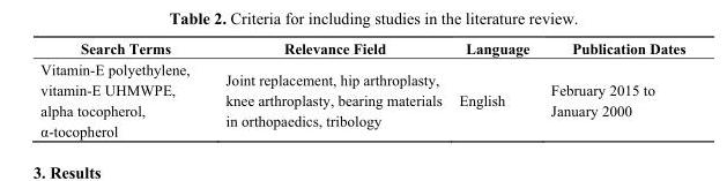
<table><thead><tr><td>Search Terms</td><td>Relevance Field</td><td>Language</td><td>Publication Dates</td></tr></thead><tbody><tr><td>Vitamin-E polyethylene, vitamin-E UHMWPE, alpha tocopherol, α-tocopherol</td><td>Joint replacement, hip arthroplasty, knee arthroplasty, bearing materials in orthopaedics, tribology</td><td>English</td><td>February 2015 to January 2000</td></tr></tbody></table>